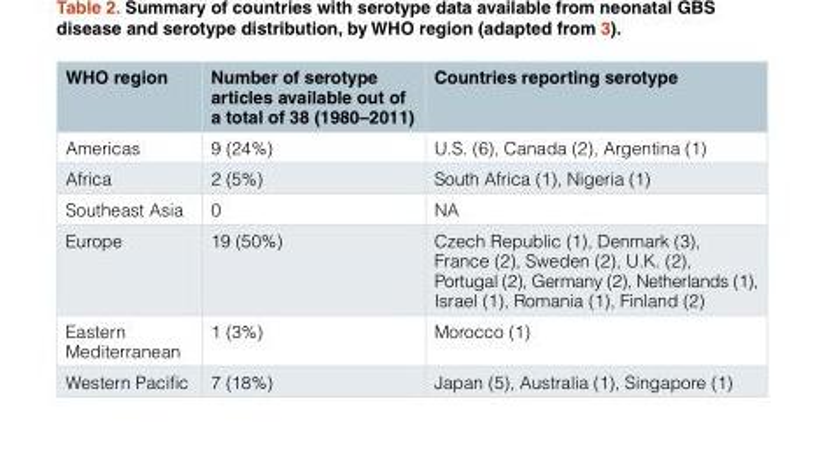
<table><thead><tr><td>WHO region</td><td>Number of serotype articles available out of a total of 38 (1980–2011)</td><td>Countries reporting serotype</td></tr></thead><tbody><tr><td>Americas</td><td>9 (24%)</td><td>U.S. (6), Canada (2), Argentina (1)</td></tr><tr><td>Africa</td><td>2 (5%)</td><td>South Africa (1), Nigeria (1)</td></tr><tr><td>Southeast Asia</td><td>0</td><td>NA</td></tr><tr><td>Europe</td><td>19 (50%)</td><td>Czech Republic (1), Denmark (3), France (2), Sweden (2), U.K. (2), Portugal (2), Germany (2), Netherlands (1), Israel (1), Romania (1), Finland (2)</td></tr><tr><td>Eastern Mediterranean</td><td>1 (3%)</td><td>Morocco (1)</td></tr><tr><td>Western Pacific</td><td>7 (18%)</td><td>Japan (5), Australia (1), Singapore (1)</td></tr></tbody></table>